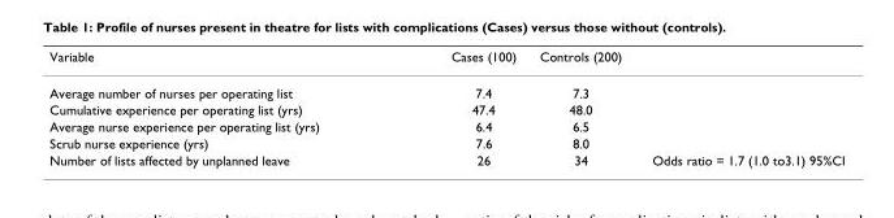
<table><thead><tr><td>Variable</td><td>Cases (100)</td><td>Controls (200)</td><td></td></tr></thead><tbody><tr><td>Average number of nurses per operating list</td><td>7.4</td><td>7.3</td><td></td></tr><tr><td>Cumulative experience per operating list (yrs)</td><td>47.4</td><td>48.0</td><td></td></tr><tr><td>Average nurse experience per operating list (yrs)</td><td>6.4</td><td>6.5</td><td></td></tr><tr><td>Scrub nurse experience (yrs)</td><td>7.6</td><td>8.0</td><td></td></tr><tr><td>Number of lists affected by unplanned leave</td><td>26</td><td>34</td><td>Odds ratio = 1.7 (1.0 to3.1) 95%CI</td></tr></tbody></table>